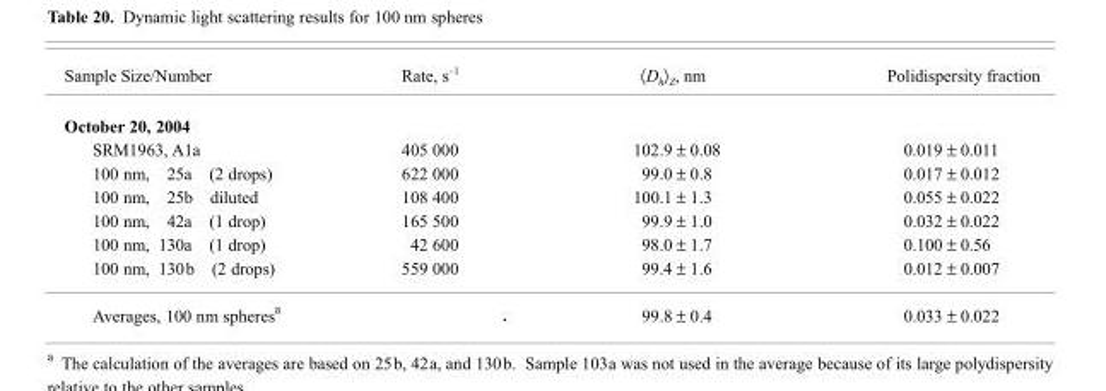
<table><thead><tr><td>Sample Size/Number</td><td>Rate, s<sup>–1</sup></td><td>〈Dh〉Z, nm</td><td>Polidispersity fraction</td></tr></thead><tbody><tr><td colspan="4">October 20, 2004</td></tr><tr><td>SRM1963, A1a</td><td>405 000</td><td>102.9 ± 0.08</td><td>0.019 ± 0.011</td></tr><tr><td>100 nm, 25a (2 drops)</td><td>622 000</td><td>99.0 ± 0.8</td><td>0.017 ± 0.012</td></tr><tr><td>100 nm, 25b diluted</td><td>108 400</td><td>100.1 ± 1.3</td><td>0.055 ± 0.022</td></tr><tr><td>100 nm, 42a (1 drop)</td><td>165 500</td><td>99.9 ± 1.0</td><td>0.032 ± 0.022</td></tr><tr><td>100 nm, 130a (1 drop)</td><td>42 600</td><td>98.0 ± 1.7</td><td>0.100 ± 0.56</td></tr><tr><td>100 nm, 130b (2 drops)</td><td>559 000</td><td>99.4 ± 1.6</td><td>0.012 ± 0.007</td></tr><tr><td>Averages, 100 nm spheres<sup>a</sup></td><td></td><td>99.8 ± 0.4</td><td>0.033 ± 0.022</td></tr></tbody></table>